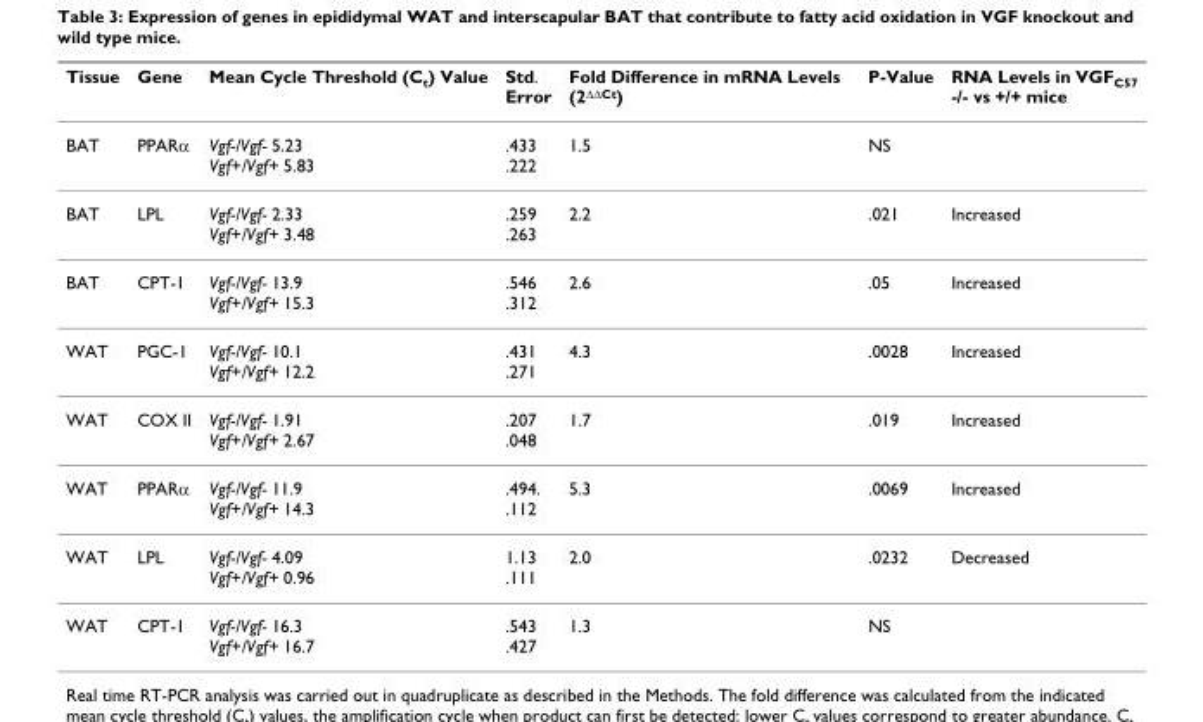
<table><thead><tr><td>Tissue</td><td>Gene</td><td>Mean Cycle Threshold (C<sub>t</sub>) Value</td><td>Std. Error</td><td>Fold Difference in mRNA Levels (2<sup>ΔΔCt</sup>)</td><td>P-Value</td><td>RNA Levels in VGF<sub>C57</sub> -/- vs +/+ mice</td></tr></thead><tbody><tr><td>BAT</td><td>PPARα</td><td>Vgf-/Vgf- 5.23 Vgf+/Vgf+ 5.83</td><td>.433 .222</td><td>1.5</td><td>NS</td><td></td></tr><tr><td>BAT</td><td>LPL</td><td>Vgf-/Vgf- 2.33 Vgf+/Vgf+ 3.48</td><td>.259 .263</td><td>2.2</td><td>.021</td><td>Increased</td></tr><tr><td>BAT</td><td>CPT-1</td><td>Vgf-/Vgf- 13.9 Vgf+/Vgf+ 15.3</td><td>.546 .312</td><td>2.6</td><td>.05</td><td>Increased</td></tr><tr><td>WAT</td><td>PGC-1</td><td>Vgf-/Vgf- 10.1 Vgf+/Vgf+ 12.2</td><td>.431 .271</td><td>4.3</td><td>.0028</td><td>Increased</td></tr><tr><td>WAT</td><td>COX II</td><td>Vgf-/Vgf- 1.91 Vgf+/Vgf+ 2.67</td><td>.207 .048</td><td>1.7</td><td>.019</td><td>Increased</td></tr><tr><td>WAT</td><td>PPARα</td><td>Vgf-/Vgf- 11.9 Vgf+/Vgf+ 14.3</td><td>.494. .112</td><td>5.3</td><td>.0069</td><td>Increased</td></tr><tr><td>WAT</td><td>LPL</td><td>Vgf-/Vgf- 4.09 Vgf+/Vgf+ 0.96</td><td>1.13 .111</td><td>2.0</td><td>.0232</td><td>Decreased</td></tr><tr><td>WAT</td><td>CPT-1</td><td>Vgf-/Vgf- 16.3 Vgf+/Vgf+ 16.7</td><td>.543 .427</td><td>1.3</td><td>NS</td><td></td></tr></tbody></table>